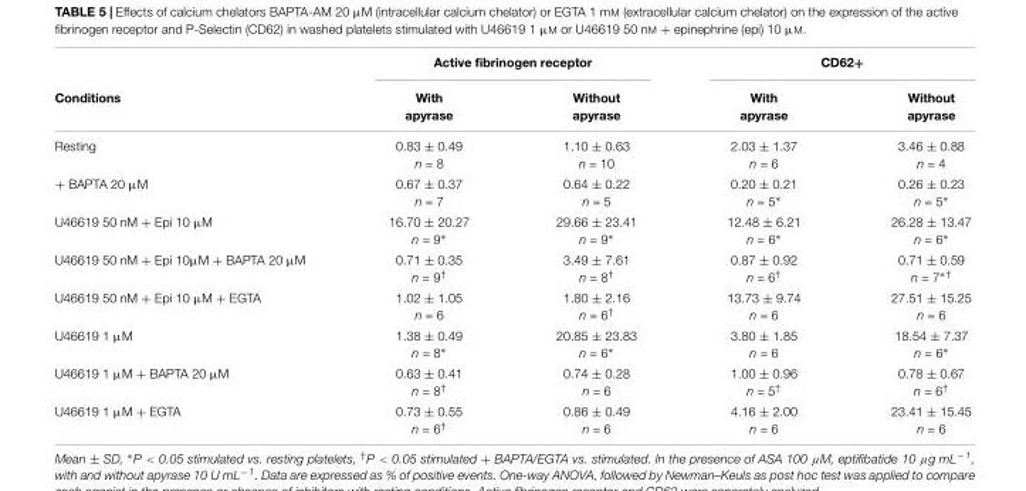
<table><thead><tr><td rowspan="2">Conditions</td><td colspan="2">Active fibrinogen receptor</td><td colspan="2">CD62+</td></tr><tr><td>With apyrase</td><td>Without apyrase</td><td>With apyrase</td><td>Without apyrase</td></tr></thead><tbody><tr><td>Resting</td><td>0.83 ± 0.49 n = 8</td><td>1.10 ± 0.63 n = 10</td><td>2.03 ± 1.37 n = 6</td><td>3.46 ± 0.88 n = 4</td></tr><tr><td>+ BAPTA 20 µM</td><td>0.67 ± 0.37 n = 7</td><td>0.64 ± 0.22 n = 5</td><td>0.20 ± 0.21 n = 5∗</td><td>0.26 ± 0.23 n = 5∗</td></tr><tr><td>U46619 50 nM + Epi 10 µM</td><td>16.70 ± 20.27 n = 9∗</td><td>29.66 ± 23.41 n = 9∗</td><td>12.48 ± 6.21 n = 6∗</td><td>26.28 ± 13.47 n = 6∗</td></tr><tr><td>U46619 50 nM + Epi 10µM + BAPTA 20 µM</td><td>0.71 ± 0.35 n = 9<sup>†</sup></td><td>3.49 ± 7.61 n = 8<sup>†</sup></td><td>0.87 ± 0.92 n = 6<sup>†</sup></td><td>0.71 ± 0.59 n = 7<sup>∗†</sup></td></tr><tr><td>U46619 50 nM + Epi 10 µM + EGTA</td><td>1.02 ± 1.05 n = 6</td><td>1.80 ± 2.16 n = 6<sup>†</sup></td><td>13.73 ± 9.74 n = 6</td><td>27.51 ± 15.25 n = 6</td></tr><tr><td>U46619 1 µM</td><td>1.38 ± 0.49 n = 8∗</td><td>20.85 ± 23.83 n = 6∗</td><td>3.80 ± 1.85 n = 6</td><td>18.54 ± 7.37 n = 6∗</td></tr><tr><td>U46619 1 µM + BAPTA 20 µM</td><td>0.63 ± 0.41 n = 8<sup>†</sup></td><td>0.74 ± 0.28 n = 6</td><td>1.00 ± 0.96 n = 5<sup>†</sup></td><td>0.78 ± 0.67 n = 6<sup>†</sup></td></tr><tr><td>U46619 1 µM + EGTA</td><td>0.73 ± 0.55 n = 6<sup>†</sup></td><td>0.86 ± 0.49 n = 6</td><td>4.16 ± 2.00 n = 6</td><td>23.41 ± 15.45 n = 6</td></tr></tbody></table>